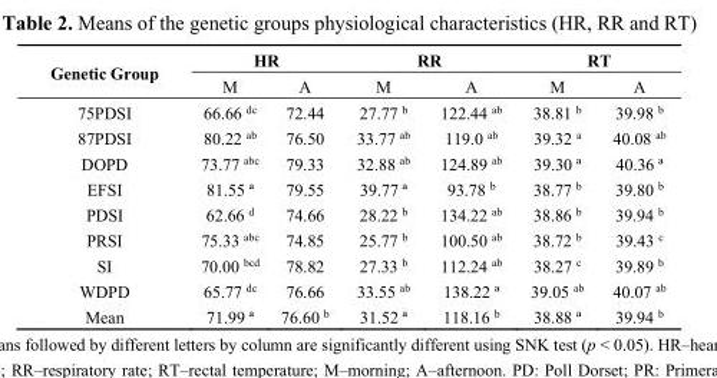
<table><thead><tr><td rowspan="2">Genetic Group</td><td colspan="2">HR</td><td colspan="2">RR</td><td colspan="2">RT</td></tr><tr><td>M</td><td>A</td><td>M</td><td>A</td><td>M</td><td>A</td></tr></thead><tbody><tr><td>75PDSI</td><td>66.66 <sup>dc</sup></td><td>72.44</td><td>27.77 <sup>b</sup></td><td>122.44 <sup>ab</sup></td><td>38.81 <sup>b</sup></td><td>39.98 <sup>b</sup></td></tr><tr><td>87PDSI</td><td>80.22 <sup>ab</sup></td><td>76.50</td><td>33.77 <sup>ab</sup></td><td>119.0 <sup>ab</sup></td><td>39.32 <sup>a</sup></td><td>40.08 <sup>ab</sup></td></tr><tr><td>DOPD</td><td>73.77 <sup>abc</sup></td><td>79.33</td><td>32.88 <sup>ab</sup></td><td>124.89 <sup>ab</sup></td><td>39.30 <sup>ª</sup></td><td>40.36 <sup>ª</sup></td></tr><tr><td>EFSI</td><td>81.55 <sup>ª</sup></td><td>79.55</td><td>39.77 <sup>ª</sup></td><td>93.78 <sup>b</sup></td><td>38.77 <sup>b</sup></td><td>39.80 <sup>b</sup></td></tr><tr><td>PDSI</td><td>62.66 <sup>d</sup></td><td>74.66</td><td>28.22 <sup>b</sup></td><td>134.22 <sup>ab</sup></td><td>38.86 <sup>b</sup></td><td>39.94 <sup>b</sup></td></tr><tr><td>PRSI</td><td>75.33 <sup>abc</sup></td><td>74.85</td><td>25.77 <sup>b</sup></td><td>100.50 <sup>ab</sup></td><td>38.72 <sup>b</sup></td><td>39.43 <sup>c</sup></td></tr><tr><td>SI</td><td>70.00 <sup>bcd</sup></td><td>78.82</td><td>27.33 <sup>b</sup></td><td>112.24 <sup>ab</sup></td><td>38.27 <sup>c</sup></td><td>39.89 <sup>b</sup></td></tr><tr><td>WDPD</td><td>65.77 <sup>dc</sup></td><td>76.66</td><td>33.55 <sup>ab</sup></td><td>138.22 <sup>ª</sup></td><td>39.05 <sup>ab</sup></td><td>40.07 <sup>ab</sup></td></tr><tr><td>Mean</td><td>71.99 <sup>ª</sup></td><td>76.60 <sup>b</sup></td><td>31.52 <sup>ª</sup></td><td>118.16 <sup>b</sup></td><td>38.88 <sup>ª</sup></td><td>39.94 <sup>b</sup></td></tr></tbody></table>